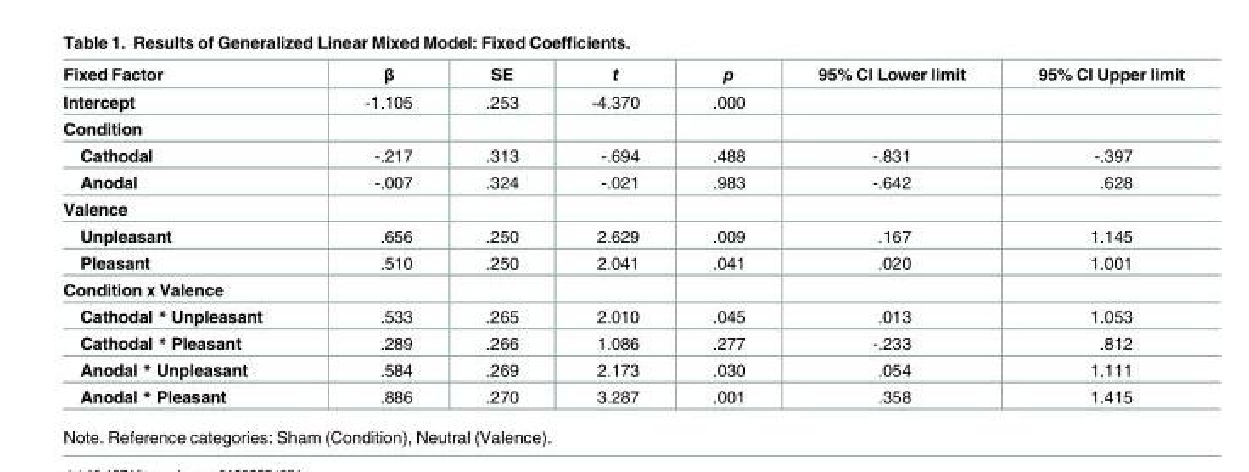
<table><thead><tr><td>Fixed Factor</td><td>β</td><td>SE</td><td>t</td><td>p</td><td>95% CI Lower limit</td><td>95% CI Upper limit</td></tr></thead><tbody><tr><td>Intercept</td><td>-1.105</td><td>.253</td><td>-4.370</td><td>.000</td><td></td><td></td></tr><tr><td colspan="7">Condition</td></tr><tr><td>Cathodal</td><td>-.217</td><td>.313</td><td>-.694</td><td>.488</td><td>-.831</td><td>-.397</td></tr><tr><td>Anodal</td><td>-.007</td><td>.324</td><td>-.021</td><td>.983</td><td>-.642</td><td>.628</td></tr><tr><td colspan="7">Valence</td></tr><tr><td>Unpleasant</td><td>.656</td><td>.250</td><td>2.629</td><td>.009</td><td>.167</td><td>1.145</td></tr><tr><td>Pleasant</td><td>.510</td><td>.250</td><td>2.041</td><td>.041</td><td>.020</td><td>1.001</td></tr><tr><td colspan="7">Condition x Valence</td></tr><tr><td>Cathodal * Unpleasant</td><td>.533</td><td>.265</td><td>2.010</td><td>.045</td><td>.013</td><td>1.053</td></tr><tr><td>Cathodal * Pleasant</td><td>.289</td><td>.266</td><td>1.086</td><td>.277</td><td>-.233</td><td>.812</td></tr><tr><td>Anodal * Unpleasant</td><td>.584</td><td>.269</td><td>2.173</td><td>.030</td><td>.054</td><td>1.111</td></tr><tr><td>Anodal * Pleasant</td><td>.886</td><td>.270</td><td>3.287</td><td>.001</td><td>.358</td><td>1.415</td></tr></tbody></table>